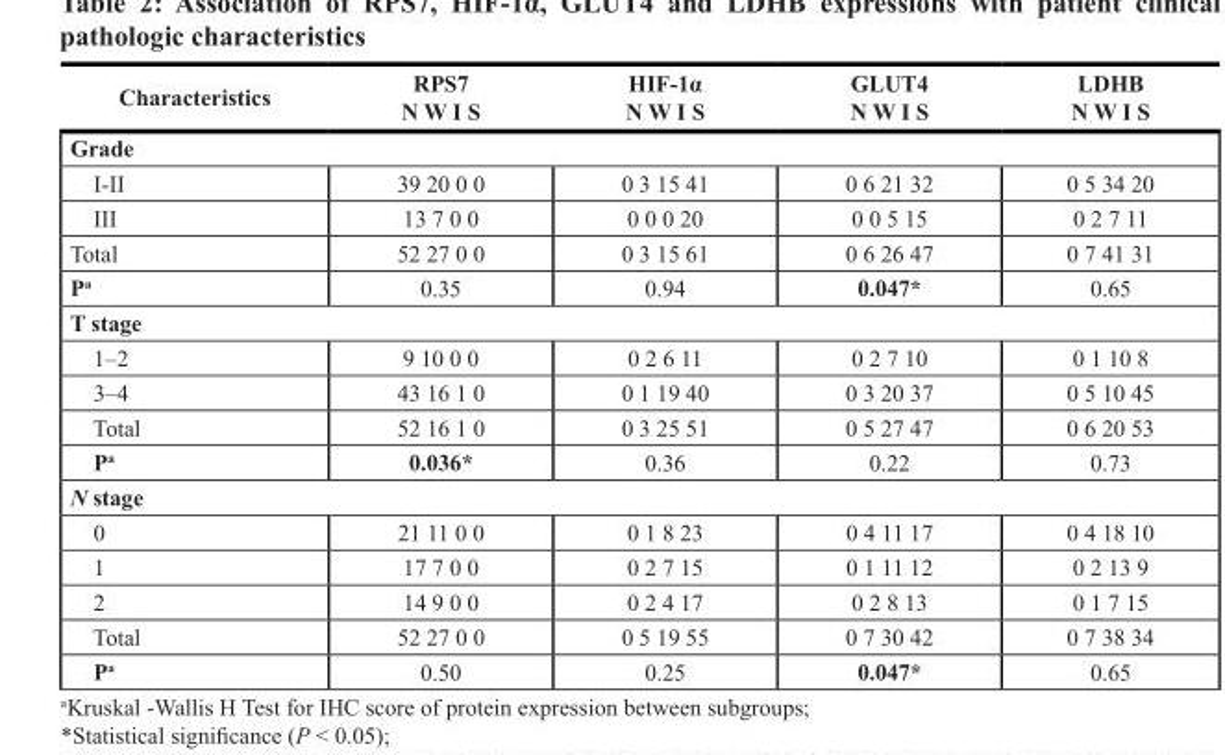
<table><thead><tr><td>Characteristics</td><td>RPS7 N W I S</td><td>HIF-1α N W I S</td><td>GLUT4 N W I S</td><td>LDHB N W I S</td></tr></thead><tbody><tr><td colspan="5">Grade</td></tr><tr><td>I-II</td><td>39 20 0 0</td><td>0 3 15 41</td><td>0 6 21 32</td><td>0 5 34 20</td></tr><tr><td>III</td><td>13 7 0 0</td><td>0 0 0 20</td><td>0 0 5 15</td><td>0 2 7 11</td></tr><tr><td>Total</td><td>52 27 0 0</td><td>0 3 15 61</td><td>0 6 26 47</td><td>0 7 41 31</td></tr><tr><td>P<sup>a</sup></td><td>0.35</td><td>0.94</td><td>0.047*</td><td>0.65</td></tr><tr><td colspan="5">T stage</td></tr><tr><td>1–2</td><td>9 10 0 0</td><td>0 2 6 11</td><td>0 2 7 10</td><td>0 1 10 8</td></tr><tr><td>3–4</td><td>43 16 1 0</td><td>0 1 19 40</td><td>0 3 20 37</td><td>0 5 10 45</td></tr><tr><td>Total</td><td>52 16 1 0</td><td>0 3 25 51</td><td>0 5 27 47</td><td>0 6 20 53</td></tr><tr><td>P<sup>a</sup></td><td>0.036*</td><td>0.36</td><td>0.22</td><td>0.73</td></tr><tr><td colspan="5">N stage</td></tr><tr><td>0</td><td>21 11 0 0</td><td>0 1 8 23</td><td>0 4 11 17</td><td>0 4 18 10</td></tr><tr><td>1</td><td>17 7 0 0</td><td>0 2 7 15</td><td>0 1 11 12</td><td>0 2 13 9</td></tr><tr><td>2</td><td>14 9 0 0</td><td>0 2 4 17</td><td>0 2 8 13</td><td>0 1 7 15</td></tr><tr><td>Total</td><td>52 27 0 0</td><td>0 5 19 55</td><td>0 7 30 42</td><td>0 7 38 34</td></tr><tr><td>P<sup>a</sup></td><td>0.50</td><td>0.25</td><td>0.047*</td><td>0.65</td></tr></tbody></table>